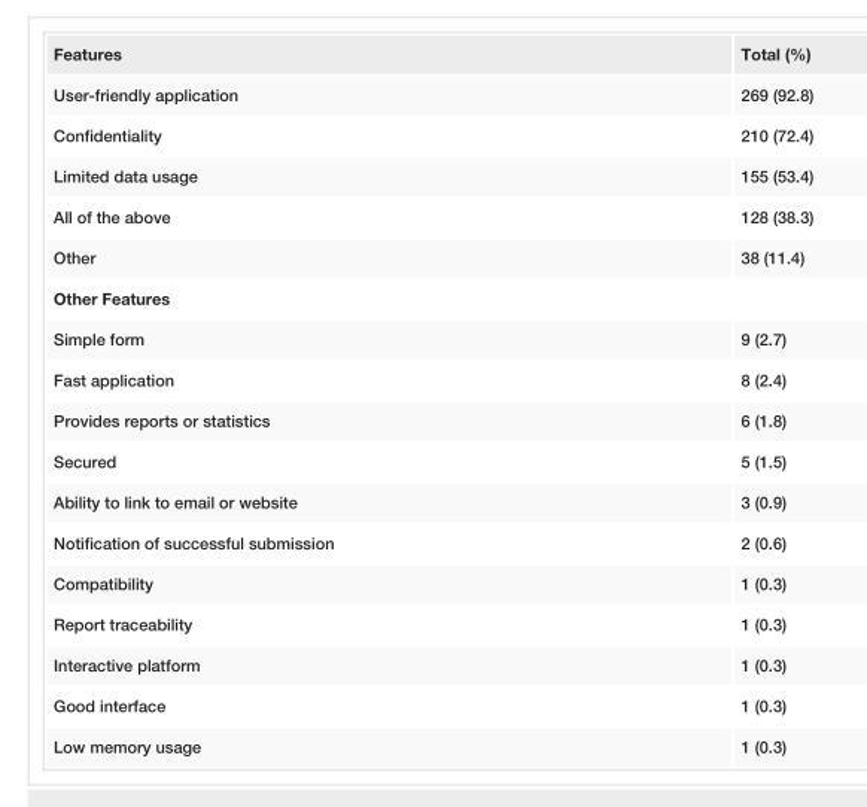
<table><tbody><tr><td>Features</td><td>Total (%)</td></tr><tr><td>User-friendly application</td><td>269 (92.8)</td></tr><tr><td>Confidentiality</td><td>210 (72.4)</td></tr><tr><td>Limited data usage</td><td>155 (53.4)</td></tr><tr><td>All of the above</td><td>128 (38.3)</td></tr><tr><td>Other</td><td>38 (11.4)</td></tr><tr><td colspan="2">Other Features</td></tr><tr><td>Simple form</td><td>9 (2.7)</td></tr><tr><td>Fast application</td><td>8 (2.4)</td></tr><tr><td>Provides reports or statistics</td><td>6 (1.8)</td></tr><tr><td>Secured</td><td>5 (1.5)</td></tr><tr><td>Ability to link to email or website</td><td>3 (0.9)</td></tr><tr><td>Notification of successful submission</td><td>2 (0.6)</td></tr><tr><td>Compatibility</td><td>1 (0.3)</td></tr><tr><td>Report traceability</td><td>1 (0.3)</td></tr><tr><td>Interactive platform</td><td>1 (0.3)</td></tr><tr><td>Good interface</td><td>1 (0.3)</td></tr><tr><td>Low memory usage</td><td>1 (0.3)</td></tr></tbody></table>